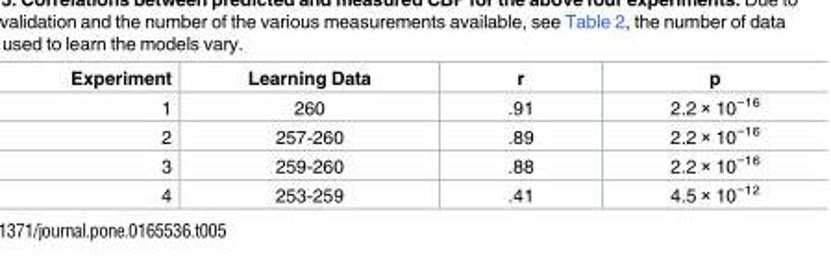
<table><thead><tr><td>Experiment</td><td>Learning Data</td><td>r</td><td>p</td></tr></thead><tbody><tr><td>1</td><td>260</td><td>.91</td><td>2.2 × 10<sup>−16</sup></td></tr><tr><td>2</td><td>257-260</td><td>.89</td><td>2.2 × 10<sup>−16</sup></td></tr><tr><td>3</td><td>259-260</td><td>.88</td><td>2.2 × 10<sup>−16</sup></td></tr><tr><td>4</td><td>253-259</td><td>.41</td><td>4.5 × 10<sup>−12</sup></td></tr></tbody></table>